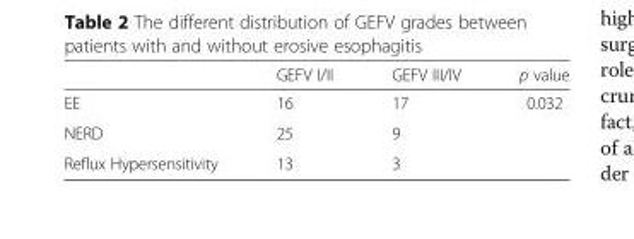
<table><thead><tr><td></td><td>GEFV I/II</td><td>GEFV III/IV</td><td>p value</td></tr></thead><tbody><tr><td>EE</td><td>16</td><td>17</td><td>0.032</td></tr><tr><td>NERD</td><td>25</td><td>9</td><td></td></tr><tr><td>Reflux Hypersensitivity</td><td>13</td><td>3</td><td></td></tr></tbody></table>